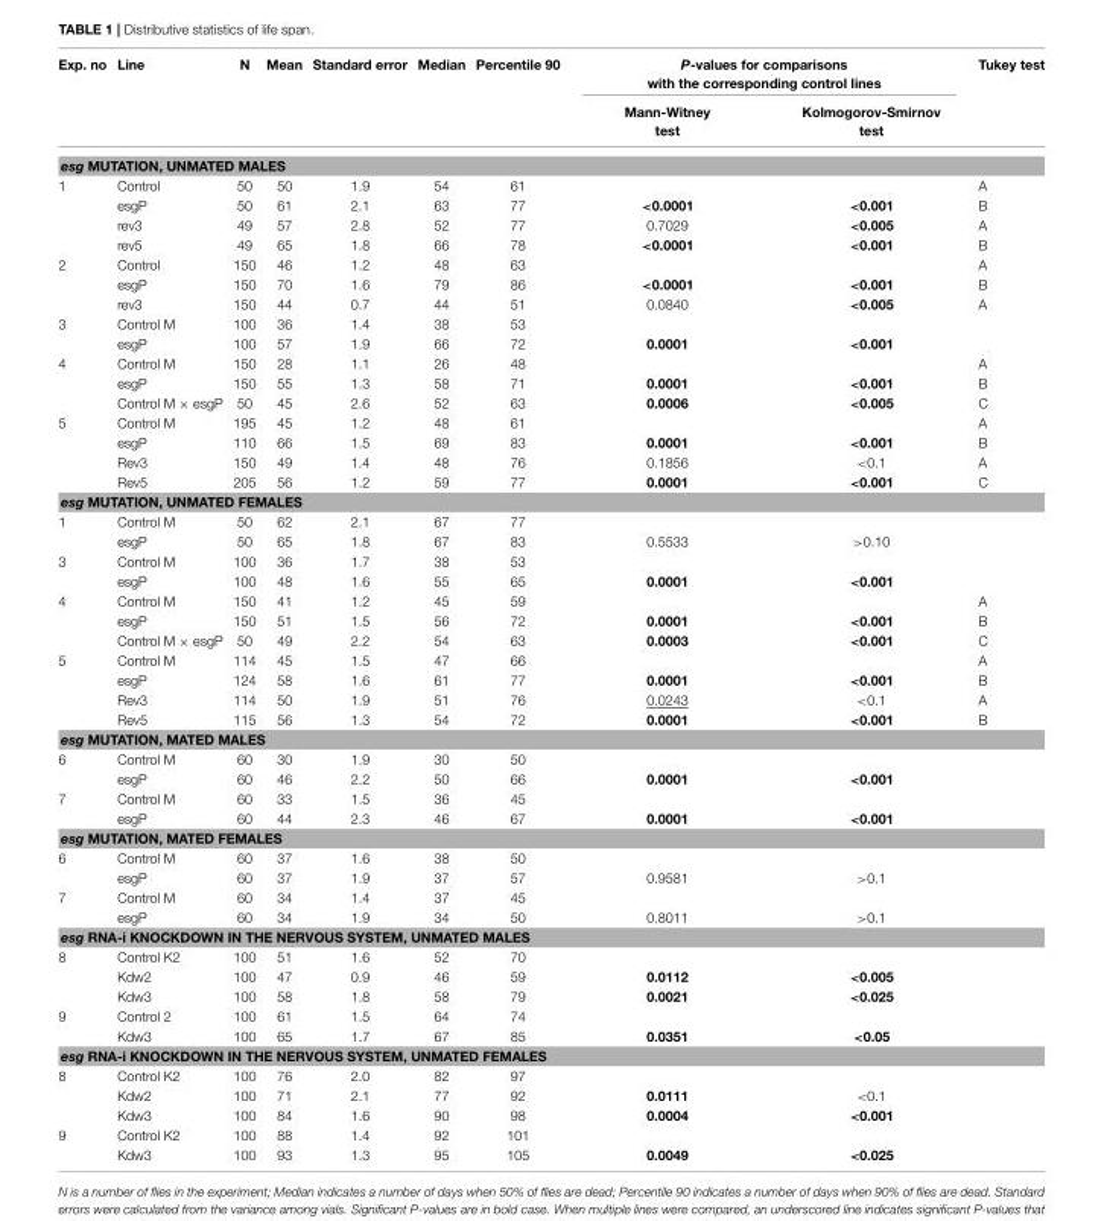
<table><thead><tr><td rowspan="2">Exp. no</td><td rowspan="2">Line</td><td rowspan="2">N</td><td rowspan="2">Mean</td><td rowspan="2">Standard error</td><td rowspan="2">Median</td><td rowspan="2">Percentile 90</td><td colspan="2">P-values for comparisons with the corresponding control lines</td><td rowspan="2">Tukey test</td></tr><tr><td>Mann-Witney test</td><td>Kolmogorov-Smirnov test</td></tr></thead><tbody><tr><td colspan="10">esg MUTATION, UNMATED MALES</td></tr><tr><td rowspan="4">1</td><td>Control</td><td>50</td><td>50</td><td>1.9</td><td>54</td><td>61</td><td></td><td></td><td>A</td></tr><tr><td>esgP</td><td>50</td><td>61</td><td>2.1</td><td>63</td><td>77</td><td>&lt;0.0001</td><td>&lt;0.001</td><td>B</td></tr><tr><td>rev3</td><td>49</td><td>57</td><td>2.8</td><td>52</td><td>77</td><td>0.7029</td><td>&lt;0.005</td><td>A</td></tr><tr><td>rev5</td><td>49</td><td>65</td><td>1.8</td><td>66</td><td>78</td><td>&lt;0.0001</td><td>&lt;0.001</td><td>B</td></tr><tr><td rowspan="3">2</td><td>Control</td><td>150</td><td>46</td><td>1.2</td><td>48</td><td>63</td><td></td><td></td><td>A</td></tr><tr><td>esgP</td><td>150</td><td>70</td><td>1.6</td><td>79</td><td>86</td><td>&lt;0.0001</td><td>&lt;0.001</td><td>B</td></tr><tr><td>rev3</td><td>150</td><td>44</td><td>0.7</td><td>44</td><td>51</td><td>0.0840</td><td>&lt;0.005</td><td>A</td></tr><tr><td rowspan="2">3</td><td>Control M</td><td>100</td><td>36</td><td>1.4</td><td>38</td><td>53</td><td></td><td></td><td></td></tr><tr><td>esgP</td><td>100</td><td>57</td><td>1.9</td><td>66</td><td>72</td><td>0.0001</td><td>&lt;0.001</td><td></td></tr><tr><td rowspan="3">4</td><td>Control M</td><td>150</td><td>28</td><td>1.1</td><td>26</td><td>48</td><td></td><td></td><td>A</td></tr><tr><td>esgP</td><td>150</td><td>55</td><td>1.3</td><td>58</td><td>71</td><td>0.0001</td><td>&lt;0.001</td><td>B</td></tr><tr><td>Control M × esgP</td><td>50</td><td>45</td><td>2.6</td><td>52</td><td>63</td><td>0.0006</td><td>&lt;0.005</td><td>C</td></tr><tr><td rowspan="4">5</td><td>Control M</td><td>195</td><td>45</td><td>1.2</td><td>48</td><td>61</td><td></td><td></td><td>A</td></tr><tr><td>esgP</td><td>110</td><td>66</td><td>1.5</td><td>69</td><td>83</td><td>0.0001</td><td>&lt;0.001</td><td>B</td></tr><tr><td>Rev3</td><td>150</td><td>49</td><td>1.4</td><td>48</td><td>76</td><td>0.1856</td><td>&lt;0.1</td><td>A</td></tr><tr><td>Rev5</td><td>205</td><td>56</td><td>1.2</td><td>59</td><td>77</td><td>0.0001</td><td>&lt;0.001</td><td>C</td></tr><tr><td colspan="10">esg MUTATION, UNMATED FEMALES</td></tr><tr><td rowspan="2">1</td><td>Control M</td><td>50</td><td>62</td><td>2.1</td><td>67</td><td>77</td><td></td><td></td><td></td></tr><tr><td>esgP</td><td>50</td><td>65</td><td>1.8</td><td>67</td><td>83</td><td>0.5533</td><td>&gt;0.10</td><td></td></tr><tr><td rowspan="2">3</td><td>Control M</td><td>100</td><td>36</td><td>1.7</td><td>38</td><td>53</td><td></td><td></td><td></td></tr><tr><td>esgP</td><td>100</td><td>48</td><td>1.6</td><td>55</td><td>65</td><td>0.0001</td><td>&lt;0.001</td><td></td></tr><tr><td rowspan="3">4</td><td>Control M</td><td>150</td><td>41</td><td>1.2</td><td>45</td><td>59</td><td></td><td></td><td>A</td></tr><tr><td>esgP</td><td>150</td><td>51</td><td>1.5</td><td>56</td><td>72</td><td>0.0001</td><td>&lt;0.001</td><td>B</td></tr><tr><td>Control M × esgP</td><td>50</td><td>49</td><td>2.2</td><td>54</td><td>63</td><td>0.0003</td><td>&lt;0.001</td><td>C</td></tr><tr><td rowspan="4">5</td><td>Control M</td><td>114</td><td>45</td><td>1.5</td><td>47</td><td>66</td><td></td><td></td><td>A</td></tr><tr><td>esgP</td><td>124</td><td>58</td><td>1.6</td><td>61</td><td>77</td><td>0.0001</td><td>&lt;0.001</td><td>B</td></tr><tr><td>Rev3</td><td>114</td><td>50</td><td>1.9</td><td>51</td><td>76</td><td>0.0243</td><td>&lt;0.1</td><td>A</td></tr><tr><td>Rev5</td><td>115</td><td>56</td><td>1.3</td><td>54</td><td>72</td><td>0.0001</td><td>&lt;0.001</td><td>B</td></tr><tr><td colspan="10">esg MUTATION, MATED MALES</td></tr><tr><td rowspan="2">6</td><td>Control M</td><td>60</td><td>30</td><td>1.9</td><td>30</td><td>50</td><td></td><td></td><td></td></tr><tr><td>esgP</td><td>60</td><td>46</td><td>2.2</td><td>50</td><td>66</td><td>0.0001</td><td>&lt;0.001</td><td></td></tr><tr><td rowspan="2">7</td><td>Control M</td><td>60</td><td>33</td><td>1.5</td><td>36</td><td>45</td><td></td><td></td><td></td></tr><tr><td>esgP</td><td>60</td><td>44</td><td>2.3</td><td>46</td><td>67</td><td>0.0001</td><td>&lt;0.001</td><td></td></tr><tr><td colspan="10">esg MUTATION, MATED FEMALES</td></tr><tr><td rowspan="2">6</td><td>Control M</td><td>60</td><td>37</td><td>1.6</td><td>38</td><td>50</td><td></td><td></td><td></td></tr><tr><td>esgP</td><td>60</td><td>37</td><td>1.9</td><td>37</td><td>57</td><td>0.9581</td><td>&gt;0.1</td><td></td></tr><tr><td rowspan="2">7</td><td>Control M</td><td>60</td><td>34</td><td>1.4</td><td>37</td><td>45</td><td></td><td></td><td></td></tr><tr><td>esgP</td><td>60</td><td>34</td><td>1.9</td><td>34</td><td>50</td><td>0.8011</td><td>&gt;0.1</td><td></td></tr><tr><td colspan="10">esg RNA-i KNOCKDOWN IN THE NERVOUS SYSTEM, UNMATED MALES</td></tr><tr><td rowspan="3">8</td><td>Control K2</td><td>100</td><td>51</td><td>1.6</td><td>52</td><td>70</td><td></td><td></td><td></td></tr><tr><td>Kdw2</td><td>100</td><td>47</td><td>0.9</td><td>46</td><td>59</td><td>0.0112</td><td>&lt;0.005</td><td></td></tr><tr><td>Kdw3</td><td>100</td><td>58</td><td>1.8</td><td>58</td><td>79</td><td>0.0021</td><td>&lt;0.025</td><td></td></tr><tr><td rowspan="2">9</td><td>Control 2</td><td>100</td><td>61</td><td>1.5</td><td>64</td><td>74</td><td></td><td></td><td></td></tr><tr><td>Kdw3</td><td>100</td><td>65</td><td>1.7</td><td>67</td><td>85</td><td>0.0351</td><td>&lt;0.05</td><td></td></tr><tr><td colspan="10">esg RNA-i KNOCKDOWN IN THE NERVOUS SYSTEM, UNMATED FEMALES</td></tr><tr><td rowspan="3">8</td><td>Control K2</td><td>100</td><td>76</td><td>2.0</td><td>82</td><td>97</td><td></td><td></td><td></td></tr><tr><td>Kdw2</td><td>100</td><td>71</td><td>2.1</td><td>77</td><td>92</td><td>0.0111</td><td>&lt;0.1</td><td></td></tr><tr><td>Kdw3</td><td>100</td><td>84</td><td>1.6</td><td>90</td><td>98</td><td>0.0004</td><td>&lt;0.001</td><td></td></tr><tr><td rowspan="2">9</td><td>Control K2</td><td>100</td><td>88</td><td>1.4</td><td>92</td><td>101</td><td></td><td></td><td></td></tr><tr><td>Kdw3</td><td>100</td><td>93</td><td>1.3</td><td>95</td><td>105</td><td>0.0049</td><td>&lt;0.025</td><td></td></tr></tbody></table>